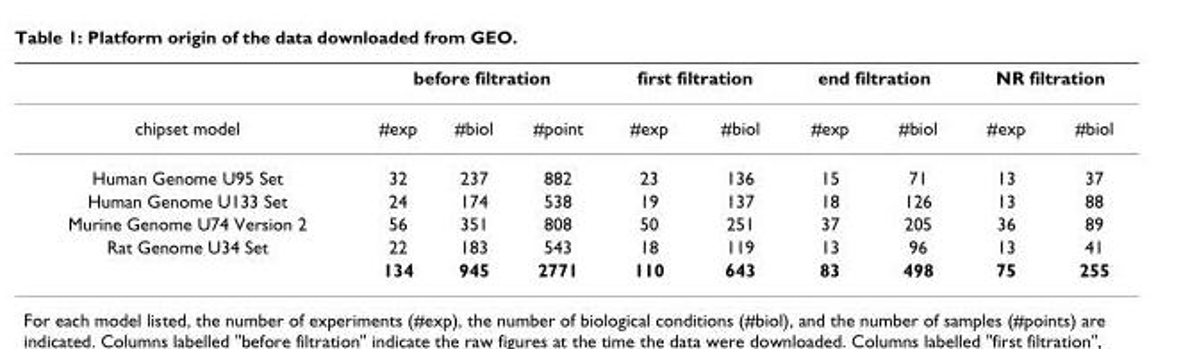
<table><thead><tr><td rowspan="2">chipset model</td><td colspan="3">before filtration</td><td colspan="2">first filtration</td><td colspan="2">end filtration</td><td colspan="2">NR filtration</td></tr><tr><td>#exp</td><td>#biol</td><td>#point</td><td>#exp</td><td>#biol</td><td>#exp</td><td>#biol</td><td>#exp</td><td>#biol</td></tr></thead><tbody><tr><td>Human Genome U95 Set</td><td>32</td><td>237</td><td>882</td><td>23</td><td>136</td><td>15</td><td>71</td><td>13</td><td>37</td></tr><tr><td>Human Genome U133 Set</td><td>24</td><td>174</td><td>538</td><td>19</td><td>137</td><td>18</td><td>126</td><td>13</td><td>88</td></tr><tr><td>Murine Genome U74 Version 2</td><td>56</td><td>351</td><td>808</td><td>50</td><td>251</td><td>37</td><td>205</td><td>36</td><td>89</td></tr><tr><td rowspan="2">Rat Genome U34 Set</td><td>22</td><td>183</td><td>543</td><td>18</td><td>119</td><td>13</td><td>96</td><td>13</td><td>41</td></tr><tr><td>134</td><td>945</td><td>2771</td><td>110</td><td>643</td><td>83</td><td>498</td><td>75</td><td>255</td></tr></tbody></table>